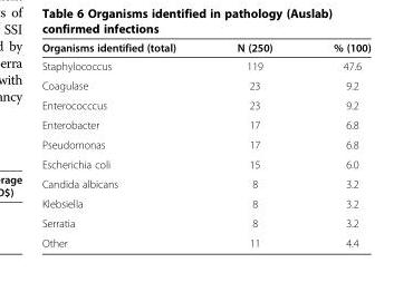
<table><thead><tr><td>Organisms identified (total)</td><td>N (250)</td><td>% (100)</td></tr></thead><tbody><tr><td>Staphylococcus</td><td>119</td><td>47.6</td></tr><tr><td>Coagulase</td><td>23</td><td>9.2</td></tr><tr><td>Enterococccus</td><td>23</td><td>9.2</td></tr><tr><td>Enterobacter</td><td>17</td><td>6.8</td></tr><tr><td>Pseudomonas</td><td>17</td><td>6.8</td></tr><tr><td>Escherichia coli</td><td>15</td><td>6.0</td></tr><tr><td>Candida albicans</td><td>8</td><td>3.2</td></tr><tr><td>Klebsiella</td><td>8</td><td>3.2</td></tr><tr><td>Serratia</td><td>8</td><td>3.2</td></tr><tr><td>Other</td><td>11</td><td>4.4</td></tr></tbody></table>